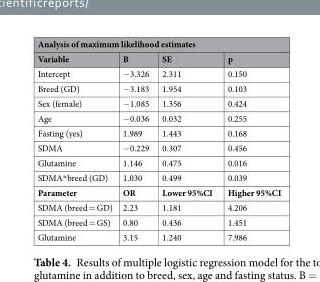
<table><thead><tr><td colspan="4">Analysis of maximum likelihood estimates</td></tr><tr><td>Variable</td><td>B</td><td>SE</td><td>p</td></tr></thead><tbody><tr><td>Intercept</td><td>−3.326</td><td>2.311</td><td>0.150</td></tr><tr><td>Breed (GD)</td><td>−3.183</td><td>1.954</td><td>0.103</td></tr><tr><td>Sex (female)</td><td>−1.085</td><td>1.356</td><td>0.424</td></tr><tr><td>Age</td><td>−0.036</td><td>0.032</td><td>0.255</td></tr><tr><td>Fasting (yes)</td><td>1.989</td><td>1.443</td><td>0.168</td></tr><tr><td>SDMA</td><td>−0.229</td><td>0.307</td><td>0.456</td></tr><tr><td>Glutamine</td><td>1.146</td><td>0.475</td><td>0.016</td></tr><tr><td>SDMA*breed (GD)</td><td>1.030</td><td>0.499</td><td>0.039</td></tr><tr><td>Parameter</td><td>OR</td><td>Lower 95%CI</td><td>Higher 95%CI</td></tr><tr><td>SDMA (breed = GD)</td><td>2.23</td><td>1.181</td><td>4.206</td></tr><tr><td>SDMA (breed = GS)</td><td>0.80</td><td>0.436</td><td>1.451</td></tr><tr><td>Glutamine</td><td>3.15</td><td>1.240</td><td>7.986</td></tr></tbody></table>